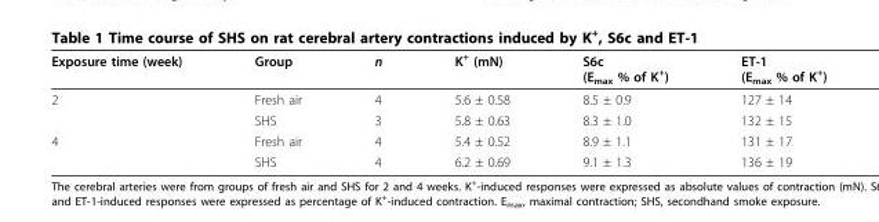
<table><thead><tr><td>Exposure time (week)</td><td>Group</td><td>n</td><td>K<sup>+</sup> (mN)</td><td>S6c (E<sub>max</sub> % of K<sup>+</sup>)</td><td>ET-1 (E<sub>max</sub> % of K<sup>+</sup>)</td></tr></thead><tbody><tr><td rowspan="2">2</td><td>Fresh air</td><td>4</td><td>5.6 ± 0.58</td><td>8.5 ± 0.9</td><td>127 ± 14</td></tr><tr><td>SHS</td><td>3</td><td>5.8 ± 0.63</td><td>8.3 ± 1.0</td><td>132 ± 15</td></tr><tr><td rowspan="2">4</td><td>Fresh air</td><td>4</td><td>5.4 ± 0.52</td><td>8.9 ± 1.1</td><td>131 ± 17</td></tr><tr><td>SHS</td><td>4</td><td>6.2 ± 0.69</td><td>9.1 ± 1.3</td><td>136 ± 19</td></tr></tbody></table>